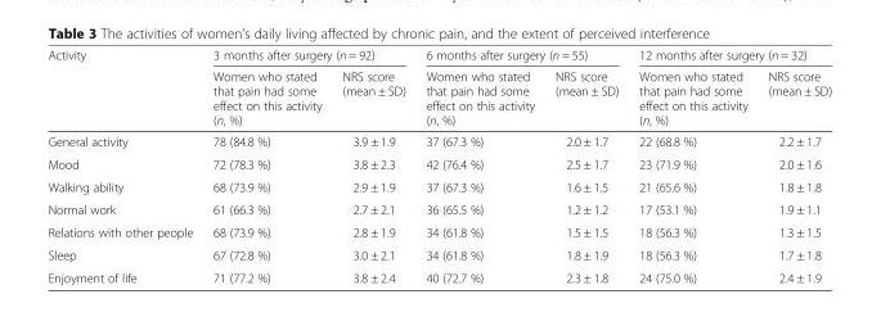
<table><thead><tr><td rowspan="2">Activity</td><td colspan="2">3 months after surgery (n = 92)</td><td colspan="2">6 months after surgery (n = 55)</td><td colspan="2">12 months after surgery (n = 32)</td></tr><tr><td>Women who stated that pain had some effect on this activity (n, %)</td><td>NRS score (mean ± SD)</td><td>Women who stated that pain had some effect on this activity (n, %)</td><td>NRS score (mean ± SD)</td><td>Women who stated that pain had some effect on this activity (n, %)</td><td>NRS score (mean ± SD)</td></tr></thead><tbody><tr><td>General activity</td><td>78 (84.8 %)</td><td>3.9 ± 1.9</td><td>37 (67.3 %)</td><td>2.0 ± 1.7</td><td>22 (68.8 %)</td><td>2.2 ± 1.7</td></tr><tr><td>Mood</td><td>72 (78.3 %)</td><td>3.8 ± 2.3</td><td>42 (76.4 %)</td><td>2.5 ± 1.7</td><td>23 (71.9 %)</td><td>2.0 ± 1.6</td></tr><tr><td>Walking ability</td><td>68 (73.9 %)</td><td>2.9 ± 1.9</td><td>37 (67.3 %)</td><td>1.6 ± 1.5</td><td>21 (65.6 %)</td><td>1.8 ± 1.8</td></tr><tr><td>Normal work</td><td>61 (66.3 %)</td><td>2.7 ± 2.1</td><td>36 (65.5 %)</td><td>1.2 ± 1.2</td><td>17 (53.1 %)</td><td>1.9 ± 1.1</td></tr><tr><td>Relations with other people</td><td>68 (73.9 %)</td><td>2.8 ± 1.9</td><td>34 (61.8 %)</td><td>1.5 ± 1.5</td><td>18 (56.3 %)</td><td>1.3 ± 1.5</td></tr><tr><td>Sleep</td><td>67 (72.8 %)</td><td>3.0 ± 2.1</td><td>34 (61.8 %)</td><td>1.8 ± 1.9</td><td>18 (56.3 %)</td><td>1.7 ± 1.8</td></tr><tr><td>Enjoyment of life</td><td>71 (77.2 %)</td><td>3.8 ± 2.4</td><td>40 (72.7 %)</td><td>2.3 ± 1.8</td><td>24 (75.0 %)</td><td>2.4 ± 1.9</td></tr></tbody></table>